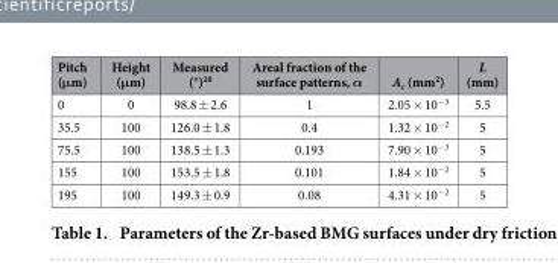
<table><thead><tr><td>Pitch (μm)</td><td>Height (μm)</td><td>Measured (°)<sup>20</sup></td><td>Areal fraction of the surface patterns, α</td><td>A<sub>c</sub> (mm<sup>2</sup>)</td><td>L (mm)</td></tr></thead><tbody><tr><td>0</td><td>0</td><td>98.8 ± 2.6</td><td>1</td><td>2.05 × 10<sup>−3</sup></td><td>5.5</td></tr><tr><td>35.5</td><td>100</td><td>126.0 ± 1.8</td><td>0.4</td><td>1.32 × 10<sup>−2</sup></td><td>5</td></tr><tr><td>75.5</td><td>100</td><td>138.5 ± 1.3</td><td>0.193</td><td>7.90 × 10<sup>−3</sup></td><td>5</td></tr><tr><td>155</td><td>100</td><td>153.5 ± 1.8</td><td>0.101</td><td>1.84 × 10<sup>−2</sup></td><td>5</td></tr><tr><td>195</td><td>100</td><td>149.3 ± 0.9</td><td>0.08</td><td>4.31 × 10<sup>−2</sup></td><td>5</td></tr></tbody></table>